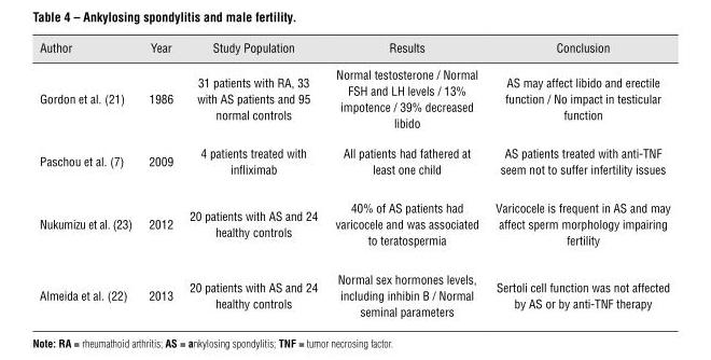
<table><thead><tr><td>Author</td><td>Year</td><td>Study Population</td><td>Results</td><td>Conclusion</td></tr></thead><tbody><tr><td>Gordon et al. (21)</td><td>1986</td><td>31 patients with RA, 33 with AS patients and 95 normal controls</td><td>Normal testosterone / Normal FSH and LH levels / 13% impotence / 39% decreased libido</td><td>AS may affect libido and erectile function / No impact in testicular function</td></tr><tr><td>Paschou et al. (7)</td><td>2009</td><td>4 patients treated with infliximab</td><td>All patients had fathered at least one child</td><td>AS patients treated with anti-TNF seem not to suffer infertility issues</td></tr><tr><td>Nukumizu et al. (23)</td><td>2012</td><td>20 patients with AS and 24 healthy controls</td><td>40% of AS patients had varicocele and was associated to teratospermia</td><td>Varicocele is frequent in AS and may affect sperm morphology impairing fertility</td></tr><tr><td>Almeida et al. (22)</td><td>2013</td><td>20 patients with AS and 24 healthy controls</td><td>Normal sex hormones levels, including inhibin B / Normal seminal parameters</td><td>Sertoli cell function was not affected by AS or by anti-TNF therapy</td></tr></tbody></table>